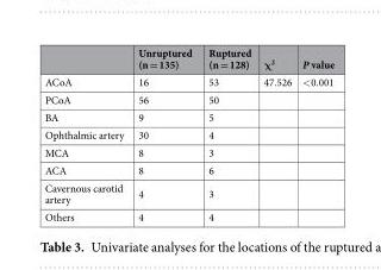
<table><thead><tr><td></td><td>Unruptured (n = 135)</td><td>Ruptured (n = 128)</td><td>χ<sup>2</sup></td><td>P value</td></tr></thead><tbody><tr><td>ACoA</td><td>16</td><td>53</td><td>47.526</td><td>&lt;0.001</td></tr><tr><td>PCoA</td><td>56</td><td>50</td><td></td><td></td></tr><tr><td>BA</td><td>9</td><td>5</td><td></td><td></td></tr><tr><td>Ophthalmic artery</td><td>30</td><td>4</td><td></td><td></td></tr><tr><td>MCA</td><td>8</td><td>3</td><td></td><td></td></tr><tr><td>ACA</td><td>8</td><td>6</td><td></td><td></td></tr><tr><td>Cavernous carotid artery</td><td>4</td><td>3</td><td></td><td></td></tr><tr><td>Others</td><td>4</td><td>4</td><td></td><td></td></tr></tbody></table>